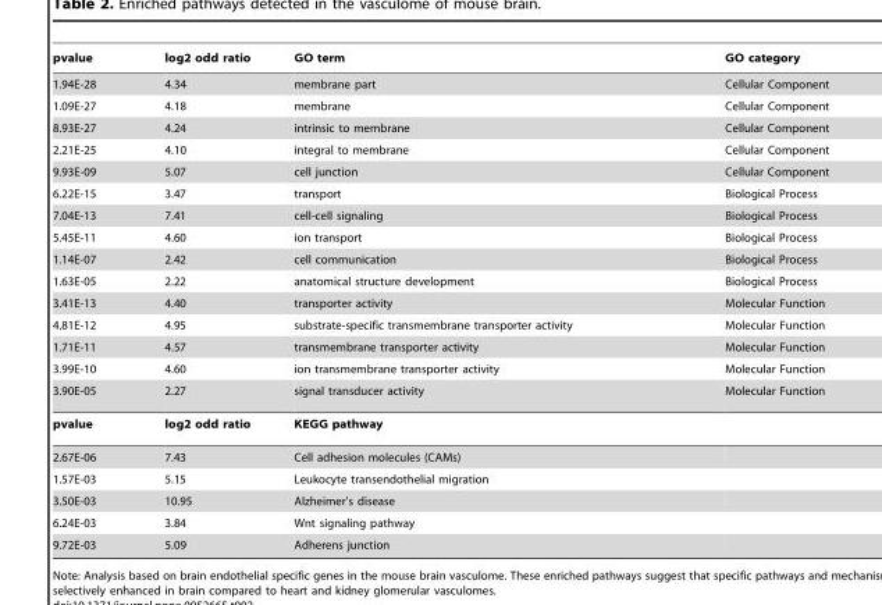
<table><thead><tr><td>pvalue</td><td>log2 odd ratio</td><td>GO term</td><td>GO category</td></tr></thead><tbody><tr><td>1.94E-28</td><td>4.34</td><td>membrane part</td><td>Cellular Component</td></tr><tr><td>1.09E-27</td><td>4.18</td><td>membrane</td><td>Cellular Component</td></tr><tr><td>8.93E-27</td><td>4.24</td><td>intrinsic to membrane</td><td>Cellular Component</td></tr><tr><td>2.21E-25</td><td>4.10</td><td>integral to membrane</td><td>Cellular Component</td></tr><tr><td>9.93E-09</td><td>5.07</td><td>cell junction</td><td>Cellular Component</td></tr><tr><td>6.22E-15</td><td>3.47</td><td>transport</td><td>Biological Process</td></tr><tr><td>7.04E-13</td><td>7.41</td><td>cell-cell signaling</td><td>Biological Process</td></tr><tr><td>5.45E-11</td><td>4.60</td><td>ion transport</td><td>Biological Process</td></tr><tr><td>1.14E-07</td><td>2.42</td><td>cell communication</td><td>Biological Process</td></tr><tr><td>1.63E-05</td><td>2.22</td><td>anatomical structure development</td><td>Biological Process</td></tr><tr><td>3.41E-13</td><td>4.40</td><td>transporter activity</td><td>Molecular Function</td></tr><tr><td>4.81E-12</td><td>4.95</td><td>substrate-specific transmembrane transporter activity</td><td>Molecular Function</td></tr><tr><td>1.71E-11</td><td>4.57</td><td>transmembrane transporter activity</td><td>Molecular Function</td></tr><tr><td>3.99E-10</td><td>4.60</td><td>ion transmembrane transporter activity</td><td>Molecular Function</td></tr><tr><td>3.90E-05</td><td>2.27</td><td>signal transducer activity</td><td>Molecular Function</td></tr><tr><td>pvalue</td><td>log2 odd ratio</td><td>KEGG pathway</td><td></td></tr><tr><td>2.67E-06</td><td>7.43</td><td>Cell adhesion molecules (CAMs)</td><td></td></tr><tr><td>1.57E-03</td><td>5.15</td><td>Leukocyte transendothelial migration</td><td></td></tr><tr><td>3.50E-03</td><td>10.95</td><td>Alzheimer’s disease</td><td></td></tr><tr><td>6.24E-03</td><td>3.84</td><td>Wnt signaling pathway</td><td></td></tr><tr><td>9.72E-03</td><td>5.09</td><td>Adherens junction</td><td></td></tr></tbody></table>